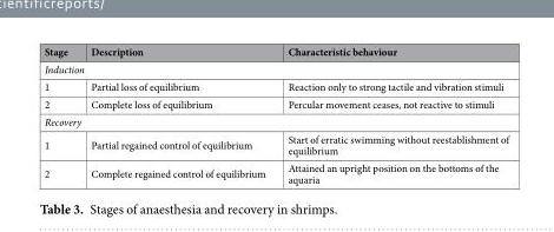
<table><thead><tr><td>Stage</td><td>Description</td><td>Characteristic behaviour</td></tr></thead><tbody><tr><td colspan="3">Induction</td></tr><tr><td>1</td><td>Partial loss of equilibrium</td><td>Reaction only to strong tactile and vibration stimuli</td></tr><tr><td>2</td><td>Complete loss of equilibrium</td><td>Percular movement ceases, not reactive to stimuli</td></tr><tr><td colspan="3">Recovery</td></tr><tr><td>1</td><td>Partial regained control of equilibrium</td><td>Start of erratic swimming without reestablishment of equilibrium</td></tr><tr><td>2</td><td>Complete regained control of equilibrium</td><td>Attained an upright position on the bottoms of the aquaria</td></tr></tbody></table>